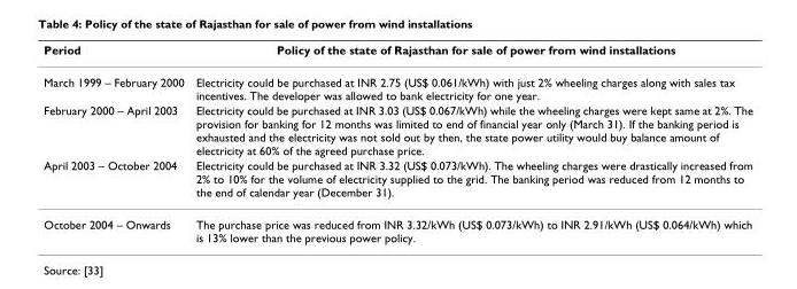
<table><thead><tr><td>Period</td><td>Policy of the state of Rajasthan for sale of power from wind installations</td></tr></thead><tbody><tr><td>March 1999 – February 2000</td><td>Electricity could be purchased at INR 2.75 (US$ 0.061/kWh) with just 2% wheeling charges along with sales tax incentives. The developer was allowed to bank electricity for one year.</td></tr><tr><td>February 2000 – April 2003</td><td>Electricity could be purchased at INR 3.03 (US$ 0.067/kWh) while the wheeling charges were kept same at 2%. The provision for banking for 12 months was limited to end of financial year only (March 31). If the banking period is exhausted and the electricity was not sold out by then, the state power utility would buy balance amount of electricity at 60% of the agreed purchase price.</td></tr><tr><td>April 2003 – October 2004</td><td>Electricity could be purchased at INR 3.32 (US$ 0.073/kWh). The wheeling charges were drastically increased from 2% to 10% for the volume of electricity supplied to the grid. The banking period was reduced from 12 months to the end of calendar year (December 31).</td></tr><tr><td>October 2004 – Onwards</td><td>The purchase price was reduced from INR 3.32/kWh (US$ 0.073/kWh) to INR 2.91/kWh (US$ 0.064/kWh) which is 13% lower than the previous power policy.</td></tr></tbody></table>